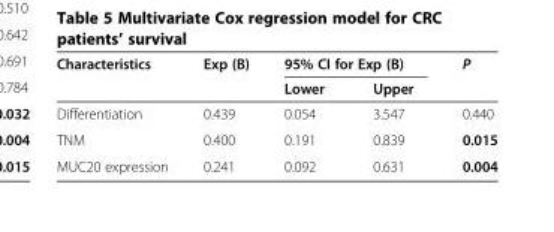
<table><thead><tr><td rowspan="2">Characteristics</td><td rowspan="2">Exp (B)</td><td colspan="2">95% CI for Exp (B)</td><td rowspan="2">P</td></tr><tr><td>Lower</td><td>Upper</td></tr></thead><tbody><tr><td>Differentiation</td><td>0.439</td><td>0.054</td><td>3.547</td><td>0.440</td></tr><tr><td>TNM</td><td>0.400</td><td>0.191</td><td>0.839</td><td>0.015</td></tr><tr><td>MUC20 expression</td><td>0.241</td><td>0.092</td><td>0.631</td><td>0.004</td></tr></tbody></table>